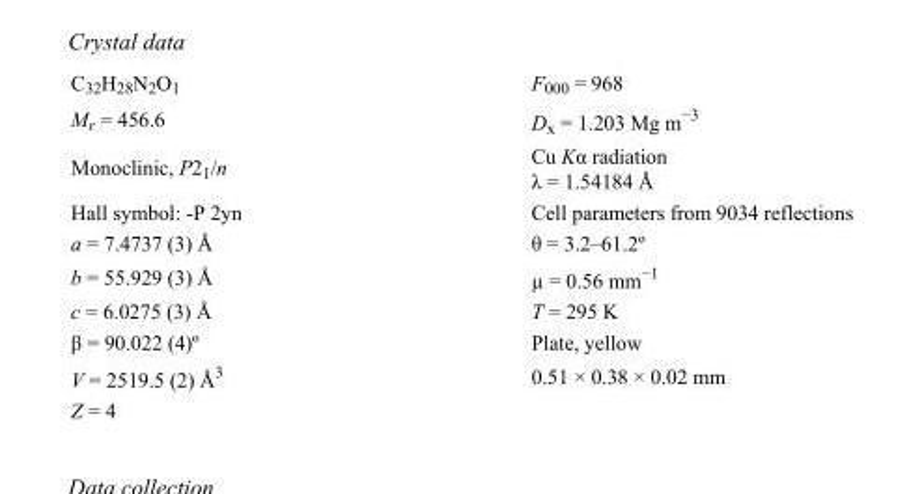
<table><tbody><tr><td>C32H28N2O1</td><td>F000 = 968</td></tr><tr><td>M<sub>r</sub> = 456.6</td><td>D<sub>x</sub> = 1.203 Mg m<sup>−3</sup></td></tr><tr><td>Monoclinic, P2<sub>1</sub>/n</td><td>Cu Kα radiation λ = 1.54184 Å</td></tr><tr><td>Hall symbol: -P 2yn</td><td>Cell parameters from 9034 reflections</td></tr><tr><td>a = 7.4737 (3) Å</td><td>θ = 3.2–61.2º</td></tr><tr><td>b = 55.929 (3) Å</td><td>µ = 0.56 mm<sup>−1</sup></td></tr><tr><td>c = 6.0275 (3) Å</td><td>T = 295 K</td></tr><tr><td>β = 90.022 (4)º</td><td>Plate, yellow</td></tr><tr><td>V = 2519.5 (2) Å<sup>3</sup></td><td>0.51 × 0.38 × 0.02 mm</td></tr><tr><td>Z = 4</td><td></td></tr></tbody></table>